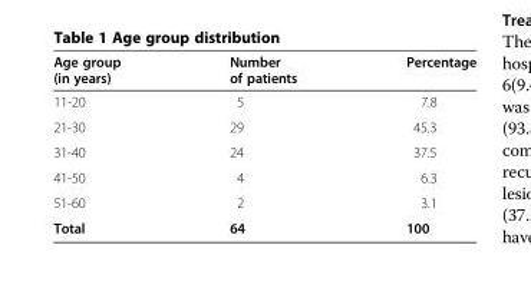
<table><thead><tr><td>Age group (in years)</td><td>Number of patients</td><td>Percentage</td></tr></thead><tbody><tr><td>11-20</td><td>5</td><td>7.8</td></tr><tr><td>21-30</td><td>29</td><td>45.3</td></tr><tr><td>31-40</td><td>24</td><td>37.5</td></tr><tr><td>41-50</td><td>4</td><td>6.3</td></tr><tr><td>51-60</td><td>2</td><td>3.1</td></tr><tr><td>Total</td><td>64</td><td>100</td></tr></tbody></table>